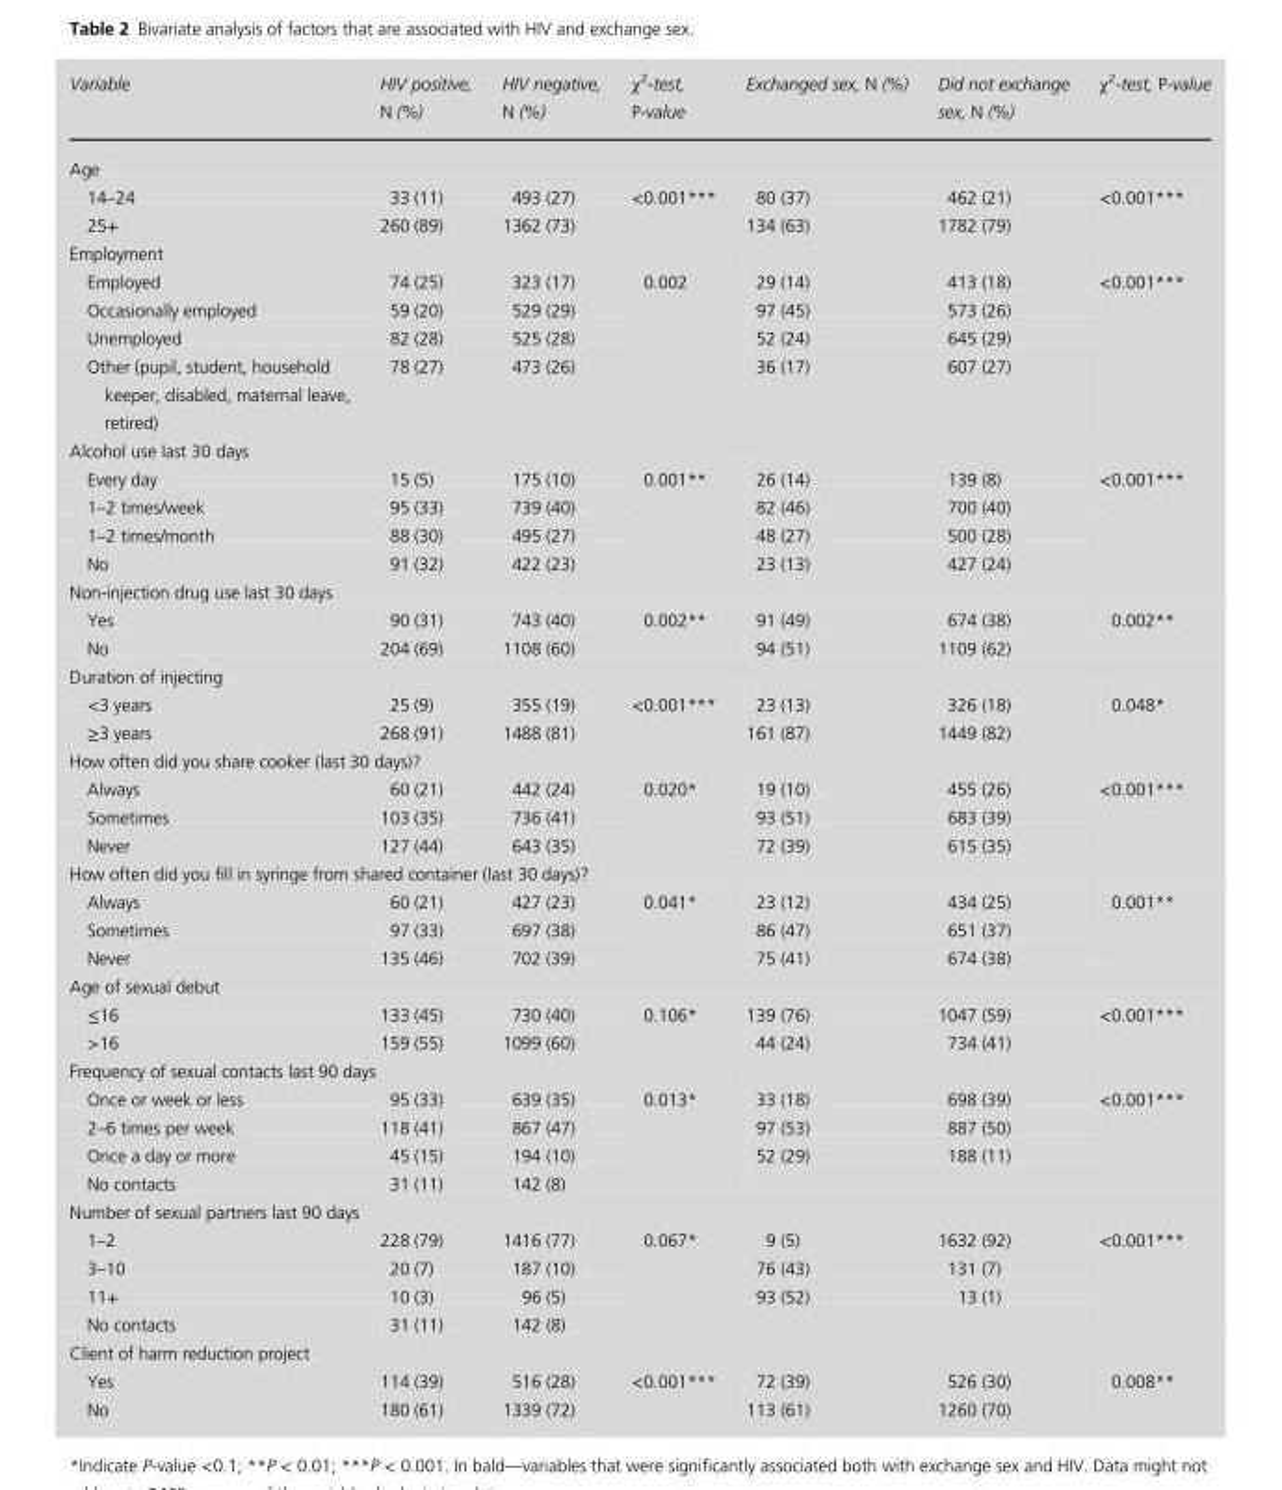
<table><thead><tr><td>Variable</td><td>HIV positive, N (%)</td><td>HIV negative, N (%)</td><td>χ<sup>2</sup>-test, P-value</td><td>Exchanged sex, N (%)</td><td>Did not exchange sex, N (%)</td><td>χ<sup>2</sup>-test, P-value</td></tr></thead><tbody><tr><td colspan="7">Age</td></tr><tr><td>14–24</td><td>33 (11)</td><td>493 (27)</td><td rowspan="2">&lt;0.001***</td><td>80 (37)</td><td>462 (21)</td><td rowspan="2">&lt;0.001***</td></tr><tr><td>25+</td><td>260 (89)</td><td>1362 (73)</td><td>134 (63)</td><td>1782 (79)</td></tr><tr><td colspan="7">Employment</td></tr><tr><td>Employed</td><td>74 (25)</td><td>323 (17)</td><td rowspan="4">0.002</td><td>29 (14)</td><td>413 (18)</td><td rowspan="4">&lt;0.001***</td></tr><tr><td>Occasionally employed</td><td>59 (20)</td><td>529 (29)</td><td>97 (45)</td><td>573 (26)</td></tr><tr><td>Unemployed</td><td>82 (28)</td><td>525 (28)</td><td>52 (24)</td><td>645 (29)</td></tr><tr><td>Other (pupil, student, household keeper, disabled, maternal leave, retired)</td><td>78 (27)</td><td>473 (26)</td><td>36 (17)</td><td>607 (27)</td></tr><tr><td colspan="7">Alcohol use last 30 days</td></tr><tr><td>Every day</td><td>15 (5)</td><td>175 (10)</td><td rowspan="4">0.001**</td><td>26 (14)</td><td>139 (8)</td><td rowspan="4">&lt;0.001***</td></tr><tr><td>1–2 times/week</td><td>95 (33)</td><td>739 (40)</td><td>82 (46)</td><td>700 (40)</td></tr><tr><td>1–2 times/month</td><td>88 (30)</td><td>495 (27)</td><td>48 (27)</td><td>500 (28)</td></tr><tr><td>No</td><td>91 (32)</td><td>422 (23)</td><td>23 (13)</td><td>427 (24)</td></tr><tr><td colspan="7">Non-injection drug use last 30 days</td></tr><tr><td>Yes</td><td>90 (31)</td><td>743 (40)</td><td rowspan="2">0.002**</td><td>91 (49)</td><td>674 (38)</td><td rowspan="2">0.002**</td></tr><tr><td>No</td><td>204 (69)</td><td>1108 (60)</td><td>94 (51)</td><td>1109 (62)</td></tr><tr><td colspan="7">Duration of injecting</td></tr><tr><td>&lt;3 years</td><td>25 (9)</td><td>355 (19)</td><td rowspan="2">&lt;0.001***</td><td>23 (13)</td><td>326 (18)</td><td rowspan="2">0.048*</td></tr><tr><td>≥3 years</td><td>268 (91)</td><td>1488 (81)</td><td>161 (87)</td><td>1449 (82)</td></tr><tr><td colspan="7">How often did you share cooker (last 30 days)?</td></tr><tr><td>Always</td><td>60 (21)</td><td>442 (24)</td><td rowspan="3">0.020*</td><td>19 (10)</td><td>455 (26)</td><td rowspan="3">&lt;0.001***</td></tr><tr><td>Sometimes</td><td>103 (35)</td><td>736 (41)</td><td>93 (51)</td><td>683 (39)</td></tr><tr><td>Never</td><td>127 (44)</td><td>643 (35)</td><td>72 (39)</td><td>615 (35)</td></tr><tr><td colspan="7">How often did you fill in syringe from shared container (last 30 days)?</td></tr><tr><td>Always</td><td>60 (21)</td><td>427 (23)</td><td rowspan="3">0.041*</td><td>23 (12)</td><td>434 (25)</td><td rowspan="3">0.001**</td></tr><tr><td>Sometimes</td><td>97 (33)</td><td>697 (38)</td><td>86 (47)</td><td>651 (37)</td></tr><tr><td>Never</td><td>135 (46)</td><td>702 (39)</td><td>75 (41)</td><td>674 (38)</td></tr><tr><td colspan="7">Age of sexual debut</td></tr><tr><td>≤16</td><td>133 (45)</td><td>730 (40)</td><td rowspan="2">0.106*</td><td>139 (76)</td><td>1047 (59)</td><td rowspan="2">&lt;0.001***</td></tr><tr><td>&gt;16</td><td>159 (55)</td><td>1099 (60)</td><td>44 (24)</td><td>734 (41)</td></tr><tr><td colspan="7">Frequency of sexual contacts last 90 days</td></tr><tr><td>Once or week or less</td><td>95 (33)</td><td>639 (35)</td><td rowspan="4">0.013*</td><td>33 (18)</td><td>698 (39)</td><td rowspan="4">&lt;0.001***</td></tr><tr><td>2–6 times per week</td><td>118 (41)</td><td>867 (47)</td><td>97 (53)</td><td>887 (50)</td></tr><tr><td>Once a day or more</td><td>45 (15)</td><td>194 (10)</td><td>52 (29)</td><td>188 (11)</td></tr><tr><td>No contacts</td><td>31 (11)</td><td>142 (8)</td><td></td><td></td></tr><tr><td colspan="7">Number of sexual partners last 90 days</td></tr><tr><td>1–2</td><td>228 (79)</td><td>1416 (77)</td><td rowspan="4">0.067*</td><td>9 (5)</td><td>1632 (92)</td><td rowspan="4">&lt;0.001***</td></tr><tr><td>3–10</td><td>20 (7)</td><td>187 (10)</td><td>76 (43)</td><td>131 (7)</td></tr><tr><td>11+</td><td>10 (3)</td><td>96 (5)</td><td>93 (52)</td><td>13 (1)</td></tr><tr><td>No contacts</td><td>31 (11)</td><td>142 (8)</td><td></td><td></td></tr><tr><td colspan="7">Client of harm reduction project</td></tr><tr><td>Yes</td><td>114 (39)</td><td>516 (28)</td><td rowspan="2">&lt;0.001***</td><td>72 (39)</td><td>526 (30)</td><td rowspan="2">0.008**</td></tr><tr><td>No</td><td>180 (61)</td><td>1339 (72)</td><td>113 (61)</td><td>1260 (70)</td></tr></tbody></table>